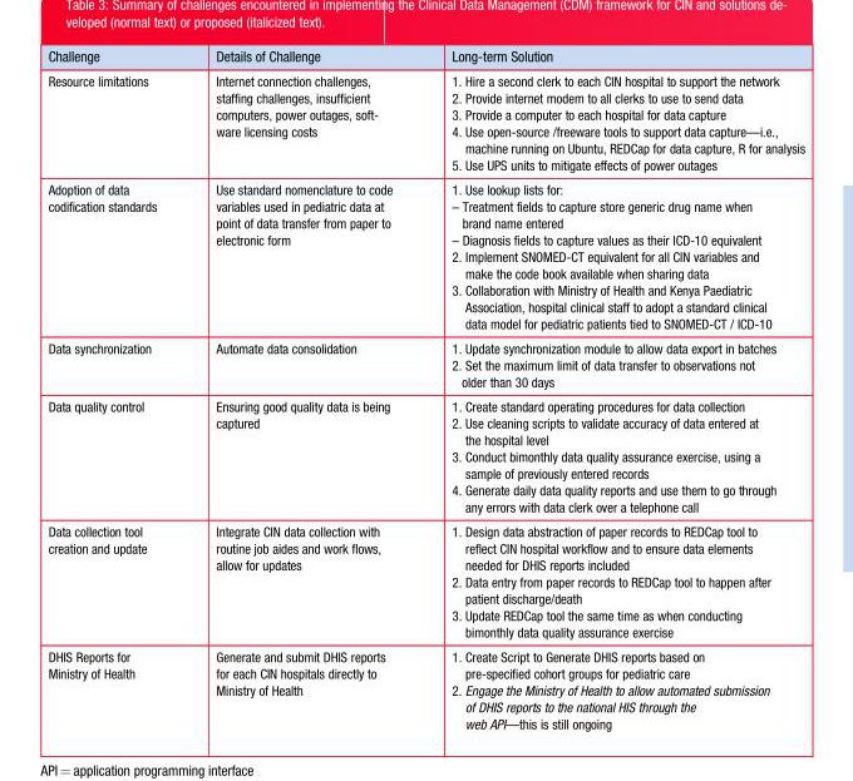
<table><thead><tr><td>Challenge</td><td>Details of Challenge</td><td>Long-term Solution</td></tr></thead><tbody><tr><td>Resource limitations</td><td>Internet connection challenges, staffing challenges, insufficient computers, power outages, soft- ware licensing costs</td><td>1. Hire a second clerk to each CIN hospital to support the network 2. Provide internet modem to all clerks to use to send data 3. Provide a computer to each hospital for data capture 4. Use open-source /freeware tools to support data capture—i.e., machine running on Ubuntu, REDCap for data capture, R for analysis 5. Use UPS units to mitigate effects of power outages</td></tr><tr><td>Adoption of data codification standards</td><td>Use standard nomenclature to code variables used in pediatric data at point of data transfer from paper to electronic form</td><td>1. Use lookup lists for: – Treatment fields to capture store generic drug name when brand name entered – Diagnosis fields to capture values as their ICD-10 equivalent 2. Implement SNOMED-CT equivalent for all CIN variables and make the code book available when sharing data 3. Collaboration with Ministry of Health and Kenya Paediatric Association, hospital clinical staff to adopt a standard clinical data model for pediatric patients tied to SNOMED-CT / ICD-10</td></tr><tr><td>Data synchronization</td><td>Automate data consolidation</td><td>1. Update synchronization module to allow data export in batches 2. Set the maximum limit of data transfer to observations not older than 30 days</td></tr><tr><td>Data quality control</td><td>Ensuring good quality data is being captured</td><td>1. Create standard operating procedures for data collection 2. Use cleaning scripts to validate accuracy of data entered at the hospital level 3. Conduct bimonthly data quality assurance exercise, using a sample of previously entered records 4. Generate daily data quality reports and use them to go through any errors with data clerk over a telephone call</td></tr><tr><td>Data collection tool creation and update</td><td>Integrate CIN data collection with routine job aides and work flows, allow for updates</td><td>1. Design data abstraction of paper records to REDCap tool to reflect CIN hospital workflow and to ensure data elements needed for DHIS reports included 2. Data entry from paper records to REDCap tool to happen after patient discharge/death 3. Update REDCap tool the same time as when conducting bimonthly data quality assurance exercise</td></tr><tr><td>DHIS Reports for Ministry of Health</td><td>Generate and submit DHIS reports for each CIN hospitals directly to Ministry of Health</td><td>1. Create Script to Generate DHIS reports based on pre-specified cohort groups for pediatric care 2. Engage the Ministry of Health to allow automated submission of DHIS reports to the national HIS through the web API—this is still ongoing</td></tr></tbody></table>